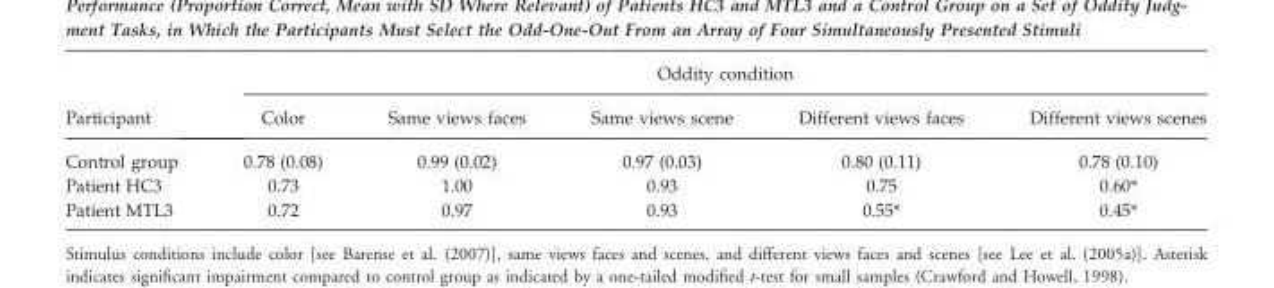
<table><thead><tr><td rowspan="2">Participant</td><td colspan="5">Oddity condition</td></tr><tr><td>Color</td><td>Same views faces</td><td>Same views scene</td><td>Different views faces</td><td>Different views scenes</td></tr></thead><tbody><tr><td>Control group</td><td>0.78 (0.08)</td><td>0.99 (0.02)</td><td>0.97 (0.03)</td><td>0.80 (0.11)</td><td>0.78 (0.10)</td></tr><tr><td>Patient HC3</td><td>0.73</td><td>1.00</td><td>0.93</td><td>0.75</td><td>0.60*</td></tr><tr><td>Patient MTL3</td><td>0.72</td><td>0.97</td><td>0.93</td><td>0.55*</td><td>0.45*</td></tr></tbody></table>